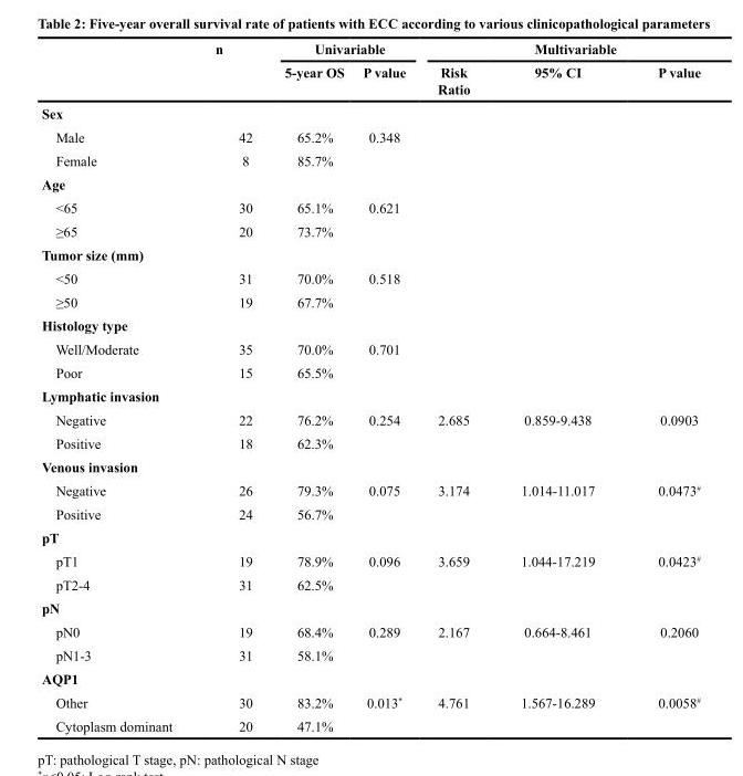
<table><thead><tr><td rowspan="2"></td><td rowspan="2">n</td><td colspan="2">Univariable</td><td colspan="3">Multivariable</td></tr><tr><td>5-year OS</td><td>P value</td><td>Risk Ratio</td><td>95% CI</td><td>P value</td></tr></thead><tbody><tr><td colspan="7">Sex</td></tr><tr><td>Male</td><td>42</td><td>65.2%</td><td>0.348</td><td></td><td></td><td></td></tr><tr><td>Female</td><td>8</td><td>85.7%</td><td></td><td></td><td></td><td></td></tr><tr><td colspan="7">Age</td></tr><tr><td>&lt;65</td><td>30</td><td>65.1%</td><td>0.621</td><td></td><td></td><td></td></tr><tr><td>≥65</td><td>20</td><td>73.7%</td><td></td><td></td><td></td><td></td></tr><tr><td colspan="7">Tumor size (mm)</td></tr><tr><td>&lt;50</td><td>31</td><td>70.0%</td><td>0.518</td><td></td><td></td><td></td></tr><tr><td>≥50</td><td>19</td><td>67.7%</td><td></td><td></td><td></td><td></td></tr><tr><td colspan="7">Histology type</td></tr><tr><td>Well/Moderate</td><td>35</td><td>70.0%</td><td>0.701</td><td></td><td></td><td></td></tr><tr><td>Poor</td><td>15</td><td>65.5%</td><td></td><td></td><td></td><td></td></tr><tr><td colspan="7">Lymphatic invasion</td></tr><tr><td>Negative</td><td>22</td><td>76.2%</td><td>0.254</td><td>2.685</td><td>0.859-9.438</td><td>0.0903</td></tr><tr><td>Positive</td><td>18</td><td>62.3%</td><td></td><td></td><td></td><td></td></tr><tr><td colspan="7">Venous invasion</td></tr><tr><td>Negative</td><td>26</td><td>79.3%</td><td>0.075</td><td>3.174</td><td>1.014-11.017</td><td>0.0473<sup>#</sup></td></tr><tr><td>Positive</td><td>24</td><td>56.7%</td><td></td><td></td><td></td><td></td></tr><tr><td colspan="7">pT</td></tr><tr><td>pT1</td><td>19</td><td>78.9%</td><td>0.096</td><td>3.659</td><td>1.044-17.219</td><td>0.0423<sup>#</sup></td></tr><tr><td>pT2-4</td><td>31</td><td>62.5%</td><td></td><td></td><td></td><td></td></tr><tr><td colspan="7">pN</td></tr><tr><td>pN0</td><td>19</td><td>68.4%</td><td>0.289</td><td>2.167</td><td>0.664-8.461</td><td>0.2060</td></tr><tr><td>pN1-3</td><td>31</td><td>58.1%</td><td></td><td></td><td></td><td></td></tr><tr><td colspan="7">AQP1</td></tr><tr><td>Other</td><td>30</td><td>83.2%</td><td>0.013*</td><td>4.761</td><td>1.567-16.289</td><td>0.0058<sup>#</sup></td></tr><tr><td>Cytoplasm dominant</td><td>20</td><td>47.1%</td><td></td><td></td><td></td><td></td></tr></tbody></table>